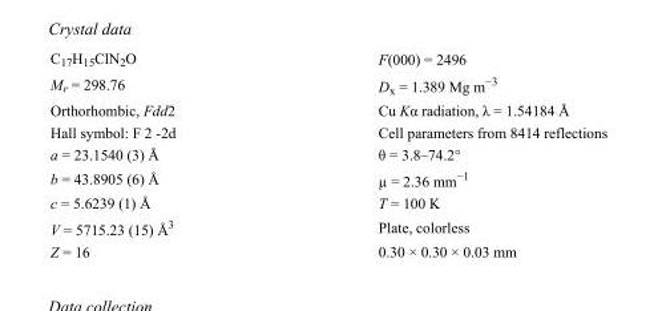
<table><tbody><tr><td>C<sub>17</sub>H<sub>15</sub>ClN<sub>2</sub>O</td><td>F(000) = 2496</td></tr><tr><td>M<sub>r</sub> = 298.76</td><td>D<sub>x</sub> = 1.389 Mg m<sup>−3</sup></td></tr><tr><td>Orthorhombic, Fdd2</td><td>Cu Kα radiation, λ = 1.54184 Å</td></tr><tr><td>Hall symbol: F 2 -2d</td><td>Cell parameters from 8414 reflections</td></tr><tr><td>a = 23.1540 (3) Å</td><td>θ = 3.8–74.2°</td></tr><tr><td>b = 43.8905 (6) Å</td><td>µ = 2.36 mm<sup>−1</sup></td></tr><tr><td>c = 5.6239 (1) Å</td><td>T = 100 K</td></tr><tr><td>V = 5715.23 (15) Å<sup>3</sup></td><td>Plate, colorless</td></tr><tr><td>Z = 16</td><td>0.30 × 0.30 × 0.03 mm</td></tr></tbody></table>